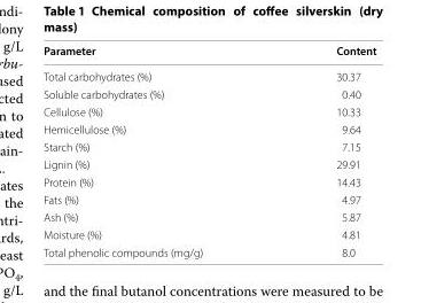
<table><thead><tr><td>Parameter</td><td>Content</td></tr></thead><tbody><tr><td>Total carbohydrates (%)</td><td>30.37</td></tr><tr><td>Soluble carbohydrates (%)</td><td>0.40</td></tr><tr><td>Cellulose (%)</td><td>10.33</td></tr><tr><td>Hemicellulose (%)</td><td>9.64</td></tr><tr><td>Starch (%)</td><td>7.15</td></tr><tr><td>Lignin (%)</td><td>29.91</td></tr><tr><td>Protein (%)</td><td>14.43</td></tr><tr><td>Fats (%)</td><td>4.97</td></tr><tr><td>Ash (%)</td><td>5.87</td></tr><tr><td>Moisture (%)</td><td>4.81</td></tr><tr><td>Total phenolic compounds (mg/g)</td><td>8.0</td></tr></tbody></table>